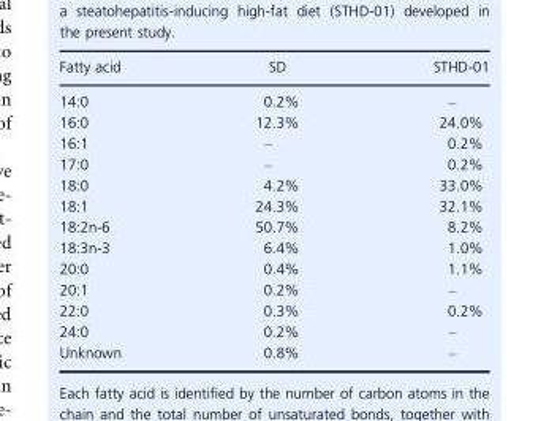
<table><thead><tr><td>Fatty acid</td><td>SD</td><td>STHD-01</td></tr></thead><tbody><tr><td>14:0</td><td>0.2%</td><td>–</td></tr><tr><td>16:0</td><td>12.3%</td><td>24.0%</td></tr><tr><td>16:1</td><td>–</td><td>0.2%</td></tr><tr><td>17:0</td><td>–</td><td>0.2%</td></tr><tr><td>18:0</td><td>4.2%</td><td>33.0%</td></tr><tr><td>18:1</td><td>24.3%</td><td>32.1%</td></tr><tr><td>18:2n-6</td><td>50.7%</td><td>8.2%</td></tr><tr><td>18:3n-3</td><td>6.4%</td><td>1.0%</td></tr><tr><td>20:0</td><td>0.4%</td><td>1.1%</td></tr><tr><td>20:1</td><td>0.2%</td><td>–</td></tr><tr><td>22:0</td><td>0.3%</td><td>0.2%</td></tr><tr><td>24:0</td><td>0.2%</td><td>–</td></tr><tr><td>Unknown</td><td>0.8%</td><td>–</td></tr></tbody></table>